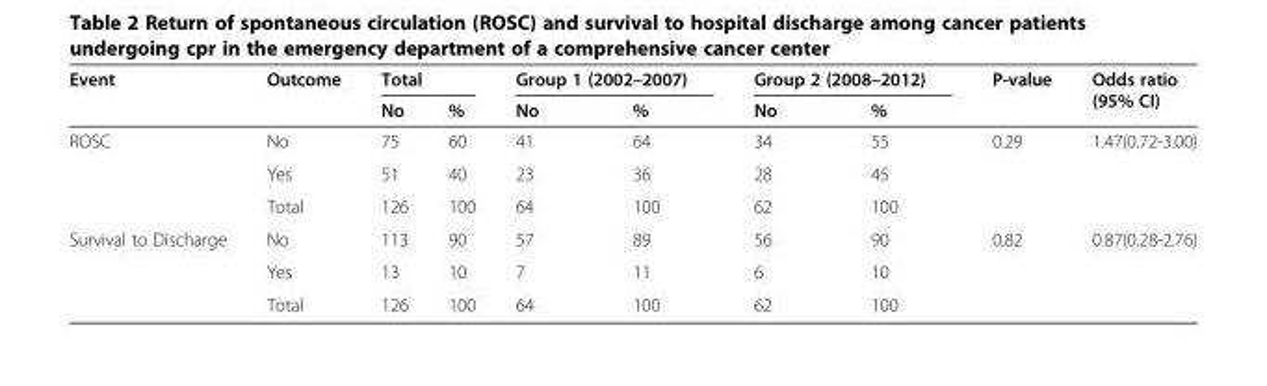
<table><thead><tr><td rowspan="2">Event</td><td rowspan="2">Outcome</td><td colspan="2">Total</td><td colspan="2">Group 1 (2002–2007)</td><td colspan="2">Group 2 (2008–2012)</td><td rowspan="2">P-value</td><td rowspan="2">Odds ratio (95% CI)</td></tr><tr><td>No</td><td>%</td><td>No</td><td>%</td><td>No</td><td>%</td></tr></thead><tbody><tr><td rowspan="3">ROSC</td><td>No</td><td>75</td><td>60</td><td>41</td><td>64</td><td>34</td><td>55</td><td rowspan="3">0.29</td><td rowspan="3">1.47(0.72-3.00)</td></tr><tr><td>Yes</td><td>51</td><td>40</td><td>23</td><td>36</td><td>28</td><td>45</td></tr><tr><td>Total</td><td>126</td><td>100</td><td>64</td><td>100</td><td>62</td><td>100</td></tr><tr><td rowspan="3">Survival to Discharge</td><td>No</td><td>113</td><td>90</td><td>57</td><td>89</td><td>56</td><td>90</td><td rowspan="3">0.82</td><td rowspan="3">0.87(0.28-2.76)</td></tr><tr><td>Yes</td><td>13</td><td>10</td><td>7</td><td>11</td><td>6</td><td>10</td></tr><tr><td>Total</td><td>126</td><td>100</td><td>64</td><td>100</td><td>62</td><td>100</td></tr></tbody></table>